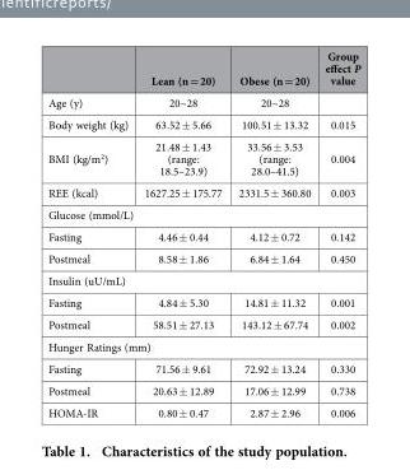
<table><thead><tr><td></td><td>Lean (n = 20)</td><td>Obese (n = 20)</td><td>Group effect P value</td></tr></thead><tbody><tr><td>Age (y)</td><td>20~28</td><td>20~28</td><td></td></tr><tr><td>Body weight (kg)</td><td>63.52 ± 5.66</td><td>100.51 ± 13.32</td><td>0.015</td></tr><tr><td>BMI (kg/m<sup>2</sup>)</td><td>21.48 ± 1.43 (range: 18.5–23.9)</td><td>33.56 ± 3.53 (range: 28.0–41.5)</td><td>0.004</td></tr><tr><td>REE (kcal)</td><td>1627.25 ± 175.77</td><td>2331.5 ± 360.80</td><td>0.003</td></tr><tr><td colspan="4">Glucose (mmol/L)</td></tr><tr><td>Fasting</td><td>4.46 ± 0.44</td><td>4.12 ± 0.72</td><td>0.142</td></tr><tr><td>Postmeal</td><td>8.58 ± 1.86</td><td>6.84 ± 1.64</td><td>0.450</td></tr><tr><td colspan="4">Insulin (uU/mL)</td></tr><tr><td>Fasting</td><td>4.84 ± 5.30</td><td>14.81 ± 11.32</td><td>0.001</td></tr><tr><td>Postmeal</td><td>58.51 ± 27.13</td><td>143.12 ± 67.74</td><td>0.002</td></tr><tr><td colspan="4">Hunger Ratings (mm)</td></tr><tr><td>Fasting</td><td>71.56 ± 9.61</td><td>72.92 ± 13.24</td><td>0.330</td></tr><tr><td>Postmeal</td><td>20.63 ± 12.89</td><td>17.06 ± 12.99</td><td>0.738</td></tr><tr><td>HOMA-IR</td><td>0.80 ± 0.47</td><td>2.87 ± 2.96</td><td>0.006</td></tr></tbody></table>